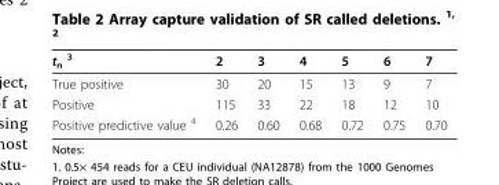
<table><thead><tr><td>t<sub>n</sub> <sup>3</sup></td><td>2</td><td>3</td><td>4</td><td>5</td><td>6</td><td>7</td></tr></thead><tbody><tr><td>True positive</td><td>30</td><td>20</td><td>15</td><td>13</td><td>9</td><td>7</td></tr><tr><td>Positive</td><td>115</td><td>33</td><td>22</td><td>18</td><td>12</td><td>10</td></tr><tr><td>Positive predictive value <sup>4</sup></td><td>0.26</td><td>0.60</td><td>0.68</td><td>0.72</td><td>0.75</td><td>0.70</td></tr></tbody></table>